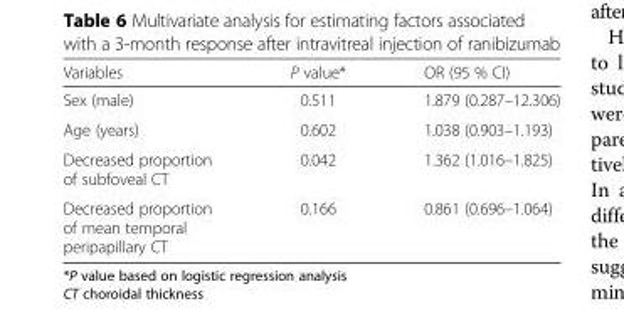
<table><thead><tr><td>Variables</td><td>P value*</td><td>OR (95 % CI)</td></tr></thead><tbody><tr><td>Sex (male)</td><td>0.511</td><td>1.879 (0.287–12.306)</td></tr><tr><td>Age (years)</td><td>0.602</td><td>1.038 (0.903–1.193)</td></tr><tr><td>Decreased proportion of subfoveal CT</td><td>0.042</td><td>1.362 (1.016–1.825)</td></tr><tr><td>Decreased proportion of mean temporal peripapillary CT</td><td>0.166</td><td>0.861 (0.696–1.064)</td></tr></tbody></table>